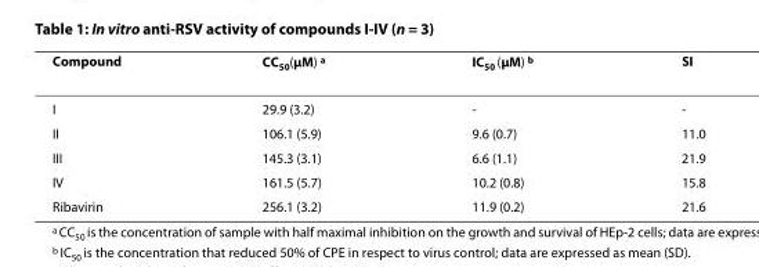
<table><thead><tr><td>Compound</td><td>CC<sub>50</sub>(μM) <sup>a</sup></td><td>IC<sub>50</sub> (μM) <sup>b</sup></td><td>SI</td></tr></thead><tbody><tr><td>I</td><td>29.9 (3.2)</td><td>-</td><td>-</td></tr><tr><td>II</td><td>106.1 (5.9)</td><td>9.6 (0.7)</td><td>11.0</td></tr><tr><td>III</td><td>145.3 (3.1)</td><td>6.6 (1.1)</td><td>21.9</td></tr><tr><td>IV</td><td>161.5 (5.7)</td><td>10.2 (0.8)</td><td>15.8</td></tr><tr><td>Ribavirin</td><td>256.1 (3.2)</td><td>11.9 (0.2)</td><td>21.6</td></tr></tbody></table>